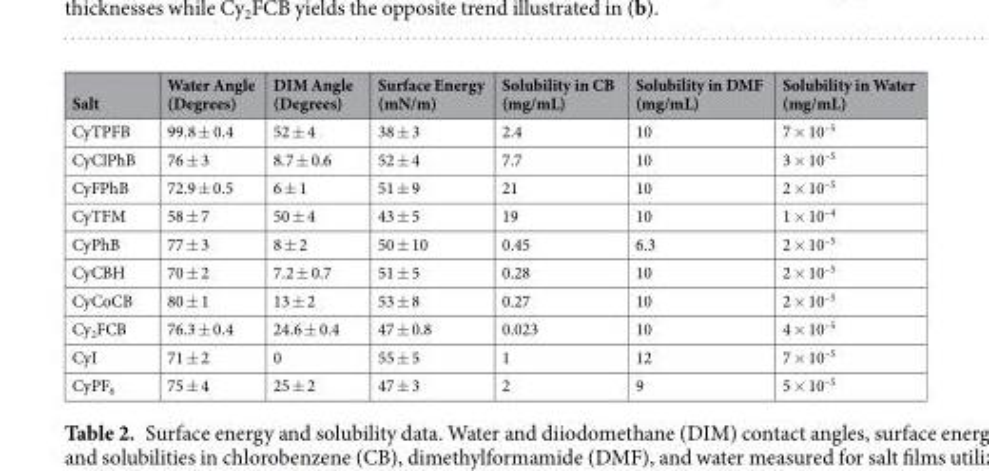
<table><thead><tr><td>Salt</td><td>Water Angle (Degrees)</td><td>DIM Angle (Degrees)</td><td>Surface Energy (mN/m)</td><td>Solubility in CB (mg/mL)</td><td>Solubility in DMF (mg/mL)</td><td>Solubility in Water (mg/mL)</td></tr></thead><tbody><tr><td>CyTPFB</td><td>99.8 ± 0.4</td><td>52 ± 4</td><td>38 ± 3</td><td>2.4</td><td>10</td><td>7 × 10<sup>–5</sup></td></tr><tr><td>CyClPhB</td><td>76 ± 3</td><td>8.7 ± 0.6</td><td>52 ± 4</td><td>7.7</td><td>10</td><td>3 × 10<sup>–5</sup></td></tr><tr><td>CyFPhB</td><td>72.9 ± 0.5</td><td>6 ± 1</td><td>51 ± 9</td><td>21</td><td>10</td><td>2 × 10<sup>–5</sup></td></tr><tr><td>CyTFM</td><td>58 ± 7</td><td>50 ± 4</td><td>43 ± 5</td><td>19</td><td>10</td><td>1 × 10<sup>–4</sup></td></tr><tr><td>CyPhB</td><td>77 ± 3</td><td>8 ± 2</td><td>50 ± 10</td><td>0.45</td><td>6.3</td><td>2 × 10<sup>–5</sup></td></tr><tr><td>CyCBH</td><td>70 ± 2</td><td>7.2 ± 0.7</td><td>51 ± 5</td><td>0.28</td><td>10</td><td>2 × 10<sup>–5</sup></td></tr><tr><td>CyCoCB</td><td>80 ± 1</td><td>13 ± 2</td><td>53 ± 8</td><td>0.27</td><td>10</td><td>2 × 10<sup>–5</sup></td></tr><tr><td>Cy<sub>2</sub>FCB</td><td>76.3 ± 0.4</td><td>24.6 ± 0.4</td><td>47 ± 0.8</td><td>0.023</td><td>10</td><td>4 × 10<sup>–5</sup></td></tr><tr><td>CyI</td><td>71 ± 2</td><td>0</td><td>55 ± 5</td><td>1</td><td>12</td><td>7 × 10<sup>–5</sup></td></tr><tr><td>CyPF<sub>6</sub></td><td>75 ± 4</td><td>25 ± 2</td><td>47 ± 3</td><td>2</td><td>9</td><td>5 × 10<sup>–5</sup></td></tr></tbody></table>